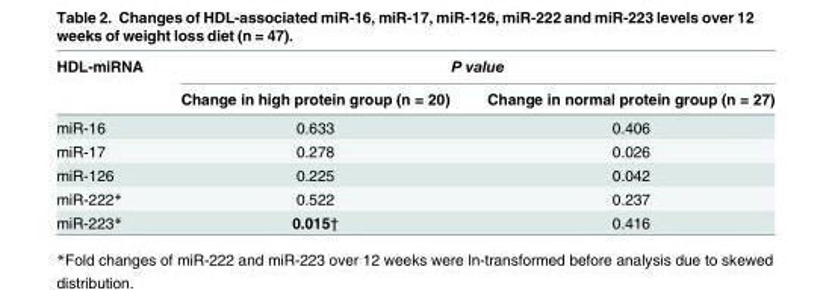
<table><thead><tr><td rowspan="2">HDL-miRNA</td><td colspan="2">P value</td></tr><tr><td>Change in high protein group (n = 20)</td><td>Change in normal protein group (n = 27)</td></tr></thead><tbody><tr><td>miR-16</td><td>0.633</td><td>0.406</td></tr><tr><td>miR-17</td><td>0.278</td><td>0.026</td></tr><tr><td>miR-126</td><td>0.225</td><td>0.042</td></tr><tr><td>miR-222*</td><td>0.522</td><td>0.237</td></tr><tr><td>miR-223*</td><td>0.015†</td><td>0.416</td></tr></tbody></table>